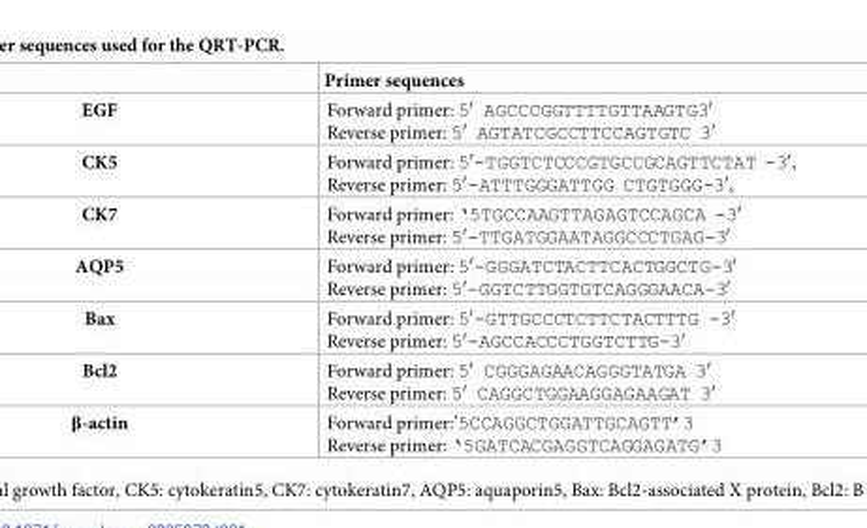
<table><thead><tr><td></td><td>Primer sequences</td></tr></thead><tbody><tr><td>EGF</td><td>Forward primer: 5′ AGCCCGGTTTTGTTAAGTG3′ Reverse primer: 5′ AGTATCGCCTTCCAGTGTC 3′</td></tr><tr><td>CK5</td><td>Forward primer: 5′-TGGTCTCCCGTGCCGCAGTTCTAT -3′, Reverse primer: 5′-ATTTGGGATTGG CTGTGGG-3′,</td></tr><tr><td>CK7</td><td>Forward primer: ‘5TGCCAAGTTAGAGTCCAGCA -3′ Reverse primer: 5′-TTGATGGAATAGGCCCTGAG-3′</td></tr><tr><td>AQP5</td><td>Forward primer: 5′-GGGATCTACTTCACTGGCTG-3′ Reverse primer: 5′-GGTCTTGGTGTCAGGGAACA-3′</td></tr><tr><td>Bax</td><td>Forward primer: 5′-GTTGCCCTCTTCTACTTTG -3′ Reverse primer: 5′-AGCCACCCTGGTCTTG-3′</td></tr><tr><td>Bcl2</td><td>Forward primer: 5′ CGGGAGAACAGGGTATGA 3′ Reverse primer: 5′ CAGGCTGGAAGGAGAAGAT 3′</td></tr><tr><td>β-actin</td><td>Forward primer:’5CCAGGCTGGATTGCAGTT’3 Reverse primer: ‘5GATCACGAGGTCAGGAGATG’3</td></tr></tbody></table>